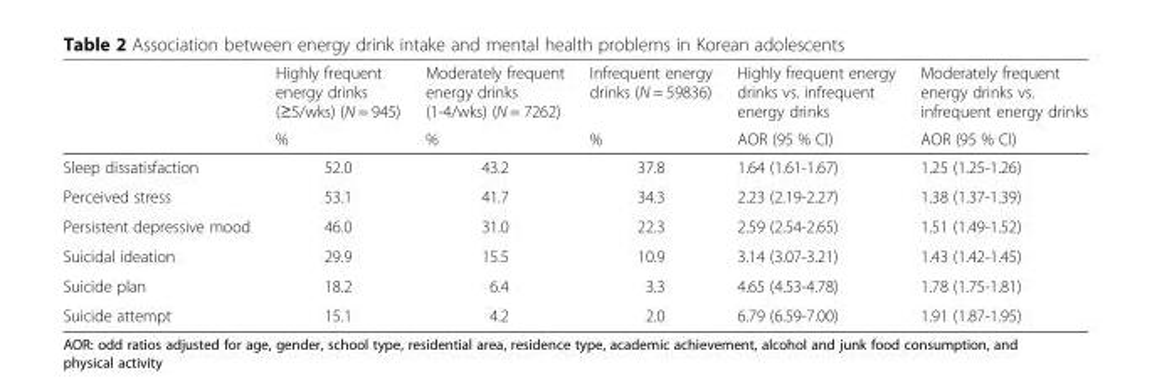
<table><thead><tr><td rowspan="2"></td><td rowspan="2">Highly frequent energy drinks (≥5/wks) (N = 945) %</td><td rowspan="2">Moderately frequent energy drinks (1-4/wks) (N = 7262) %</td><td rowspan="2">Infrequent energy drinks (N = 59836) %</td><td rowspan="2">Highly frequent energy drinks vs. infrequent energy drinks AOR (95 % CI)</td><td rowspan="2">Moderately frequent energy drinks vs. infrequent energy drinks AOR (95 % CI)</td></tr><tr></tr></thead><tbody><tr><td>Sleep dissatisfaction</td><td>52.0</td><td>43.2</td><td>37.8</td><td>1.64 (1.61-1.67)</td><td>1.25 (1.25-1.26)</td></tr><tr><td>Perceived stress</td><td>53.1</td><td>41.7</td><td>34.3</td><td>2.23 (2.19-2.27)</td><td>1.38 (1.37-1.39)</td></tr><tr><td>Persistent depressive mood</td><td>46.0</td><td>31.0</td><td>22.3</td><td>2.59 (2.54-2.65)</td><td>1.51 (1.49-1.52)</td></tr><tr><td>Suicidal ideation</td><td>29.9</td><td>15.5</td><td>10.9</td><td>3.14 (3.07-3.21)</td><td>1.43 (1.42-1.45)</td></tr><tr><td>Suicide plan</td><td>18.2</td><td>6.4</td><td>3.3</td><td>4.65 (4.53-4.78)</td><td>1.78 (1.75-1.81)</td></tr><tr><td>Suicide attempt</td><td>15.1</td><td>4.2</td><td>2.0</td><td>6.79 (6.59-7.00)</td><td>1.91 (1.87-1.95)</td></tr></tbody></table>